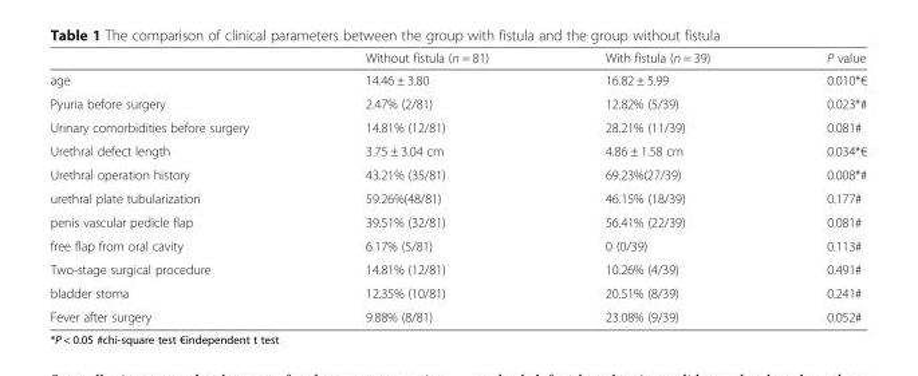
<table><thead><tr><td></td><td>Without fistula (n = 81)</td><td>With fistula (n = 39)</td><td>P value</td></tr></thead><tbody><tr><td>age</td><td>14.46 ± 3.80</td><td>16.82 ± 5.99</td><td>0.010*€</td></tr><tr><td>Pyuria before surgery</td><td>2.47% (2/81)</td><td>12.82% (5/39)</td><td>0.023*#</td></tr><tr><td>Urinary comorbidities before surgery</td><td>14.81% (12/81)</td><td>28.21% (11/39)</td><td>0.081#</td></tr><tr><td>Urethral defect length</td><td>3.75 ± 3.04 cm</td><td>4.86 ± 1.58 cm</td><td>0.034*€</td></tr><tr><td>Urethral operation history</td><td>43.21% (35/81)</td><td>69.23%(27/39)</td><td>0.008*#</td></tr><tr><td>urethral plate tubularization</td><td>59.26%(48/81)</td><td>46.15% (18/39)</td><td>0.177#</td></tr><tr><td>penis vascular pedicle flap</td><td>39.51% (32/81)</td><td>56.41% (22/39)</td><td>0.081#</td></tr><tr><td>free flap from oral cavity</td><td>6.17% (5/81)</td><td>0 (0/39)</td><td>0.113#</td></tr><tr><td>Two-stage surgical procedure</td><td>14.81% (12/81)</td><td>10.26% (4/39)</td><td>0.491#</td></tr><tr><td>bladder stoma</td><td>12.35% (10/81)</td><td>20.51% (8/39)</td><td>0.241#</td></tr><tr><td>Fever after surgery</td><td>9.88% (8/81)</td><td>23.08% (9/39)</td><td>0.052#</td></tr></tbody></table>